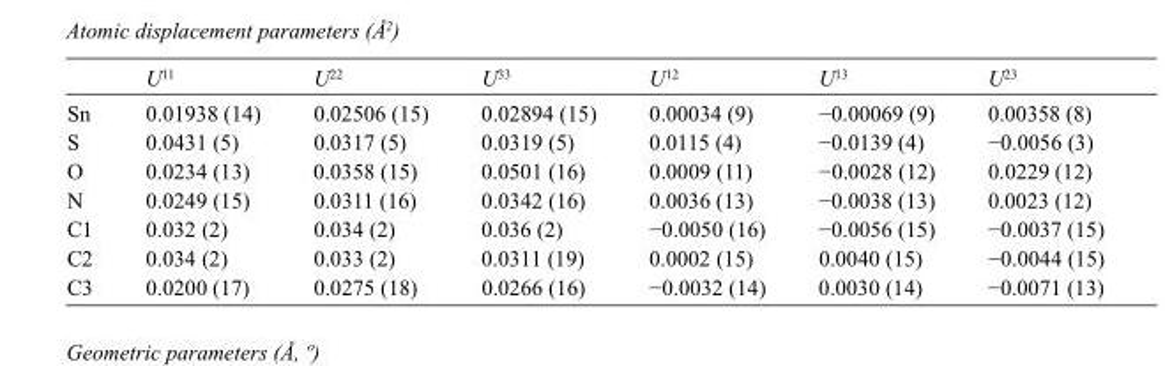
<table><thead><tr><td></td><td>U<sup>11</sup></td><td>U<sup>22</sup></td><td>U<sup>33</sup></td><td>U<sup>12</sup></td><td>U<sup>13</sup></td><td>U<sup>23</sup></td></tr></thead><tbody><tr><td>Sn</td><td>0.01938 (14)</td><td>0.02506 (15)</td><td>0.02894 (15)</td><td>0.00034 (9)</td><td>−0.00069 (9)</td><td>0.00358 (8)</td></tr><tr><td>S</td><td>0.0431 (5)</td><td>0.0317 (5)</td><td>0.0319 (5)</td><td>0.0115 (4)</td><td>−0.0139 (4)</td><td>−0.0056 (3)</td></tr><tr><td>O</td><td>0.0234 (13)</td><td>0.0358 (15)</td><td>0.0501 (16)</td><td>0.0009 (11)</td><td>−0.0028 (12)</td><td>0.0229 (12)</td></tr><tr><td>N</td><td>0.0249 (15)</td><td>0.0311 (16)</td><td>0.0342 (16)</td><td>0.0036 (13)</td><td>−0.0038 (13)</td><td>0.0023 (12)</td></tr><tr><td>C1</td><td>0.032 (2)</td><td>0.034 (2)</td><td>0.036 (2)</td><td>−0.0050 (16)</td><td>−0.0056 (15)</td><td>−0.0037 (15)</td></tr><tr><td>C2</td><td>0.034 (2)</td><td>0.033 (2)</td><td>0.0311 (19)</td><td>0.0002 (15)</td><td>0.0040 (15)</td><td>−0.0044 (15)</td></tr><tr><td>C3</td><td>0.0200 (17)</td><td>0.0275 (18)</td><td>0.0266 (16)</td><td>−0.0032 (14)</td><td>0.0030 (14)</td><td>−0.0071 (13)</td></tr></tbody></table>